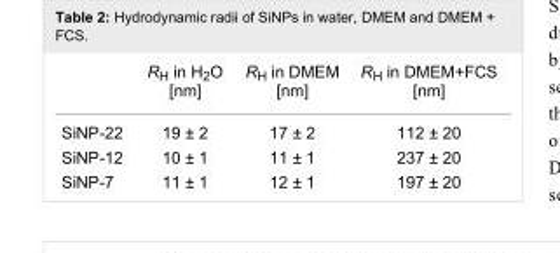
<table><thead><tr><td></td><td>R<sub>H</sub> in H<sub>2</sub>O [nm]</td><td>R<sub>H</sub> in DMEM [nm]</td><td>R<sub>H</sub> in DMEM+FCS [nm]</td></tr></thead><tbody><tr><td>SiNP-22</td><td>19 ± 2</td><td>17 ± 2</td><td>112 ± 20</td></tr><tr><td>SiNP-12</td><td>10 ± 1</td><td>11 ± 1</td><td>237 ± 20</td></tr><tr><td>SiNP-7</td><td>11 ± 1</td><td>12 ± 1</td><td>197 ± 20</td></tr></tbody></table>